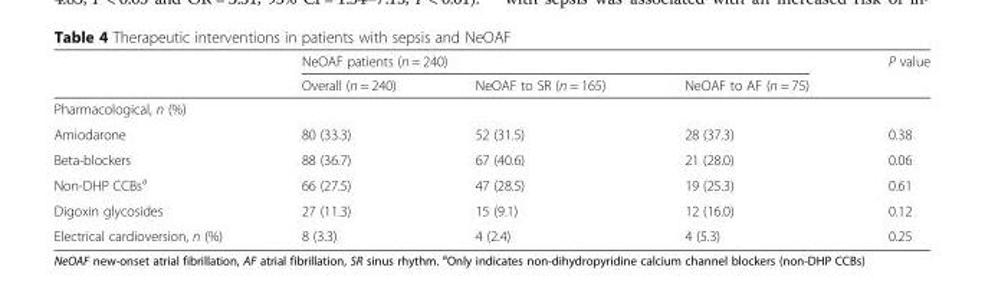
<table><thead><tr><td rowspan="2"></td><td colspan="3">NeOAF patients (n = 240)</td><td rowspan="2">P value</td></tr><tr><td>Overall (n = 240)</td><td>NeOAF to SR (n = 165)</td><td>NeOAF to AF (n = 75)</td></tr></thead><tbody><tr><td colspan="5">Pharmacological, n (%)</td></tr><tr><td>Amiodarone</td><td>80 (33.3)</td><td>52 (31.5)</td><td>28 (37.3)</td><td>0.38</td></tr><tr><td>Beta-blockers</td><td>88 (36.7)</td><td>67 (40.6)</td><td>21 (28.0)</td><td>0.06</td></tr><tr><td>Non-DHP CCBs<sup>a</sup></td><td>66 (27.5)</td><td>47 (28.5)</td><td>19 (25.3)</td><td>0.61</td></tr><tr><td>Digoxin glycosides</td><td>27 (11.3)</td><td>15 (9.1)</td><td>12 (16.0)</td><td>0.12</td></tr><tr><td>Electrical cardioversion, n (%)</td><td>8 (3.3)</td><td>4 (2.4)</td><td>4 (5.3)</td><td>0.25</td></tr></tbody></table>